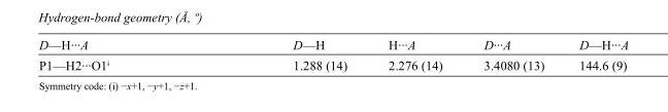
<table><tbody><tr><td>D—H···A</td><td>D—H</td><td>H···A</td><td>D···A</td><td>D—H···A</td></tr><tr><td>P1—H2···O1<sup>i</sup></td><td>1.288 (14)</td><td>2.276 (14)</td><td>3.4080 (13)</td><td>144.6 (9)</td></tr></tbody></table>